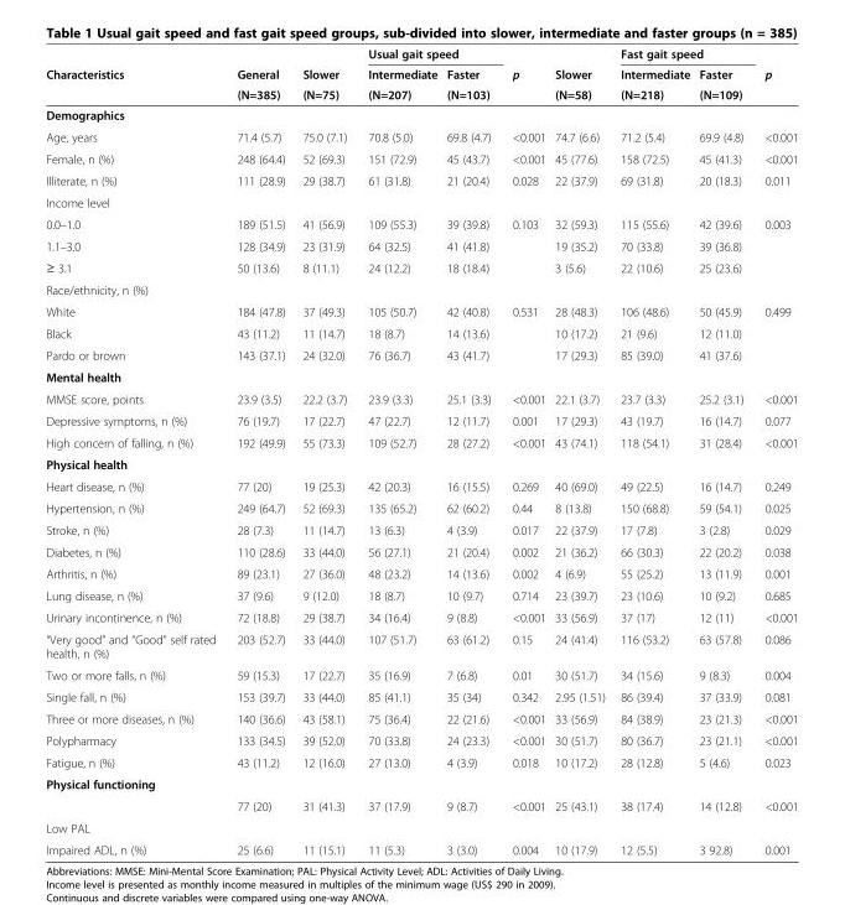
<table><thead><tr><td rowspan="3">Characteristics</td><td rowspan="3">General (N=385)</td><td rowspan="3">Slower (N=75)</td><td colspan="2">Usual gait speed</td><td rowspan="3">p</td><td rowspan="3">Slower (N=58)</td><td colspan="2">Fast gait speed</td><td rowspan="3">p</td></tr><tr><td rowspan="2">Intermediate (N=207)</td><td rowspan="2">Faster (N=103)</td><td rowspan="2">Intermediate (N=218)</td><td rowspan="2">Faster (N=109)</td></tr><tr></tr></thead><tbody><tr><td colspan="10">Demographics</td></tr><tr><td>Age, years</td><td>71.4 (5.7)</td><td>75.0 (7.1)</td><td>70.8 (5.0)</td><td>69.8 (4.7)</td><td>&lt;0.001</td><td>74.7 (6.6)</td><td>71.2 (5.4)</td><td>69.9 (4.8)</td><td>&lt;0.001</td></tr><tr><td>Female, n (%)</td><td>248 (64.4)</td><td>52 (69.3)</td><td>151 (72.9)</td><td>45 (43.7)</td><td>&lt;0.001</td><td>45 (77.6)</td><td>158 (72.5)</td><td>45 (41.3)</td><td>&lt;0.001</td></tr><tr><td>Illiterate, n (%)</td><td>111 (28.9)</td><td>29 (38.7)</td><td>61 (31.8)</td><td>21 (20.4)</td><td>0.028</td><td>22 (37.9)</td><td>69 (31.8)</td><td>20 (18.3)</td><td>0.011</td></tr><tr><td colspan="10">Income level</td></tr><tr><td>0.0–1.0</td><td>189 (51.5)</td><td>41 (56.9)</td><td>109 (55.3)</td><td>39 (39.8)</td><td>0.103</td><td>32 (59.3)</td><td>115 (55.6)</td><td>42 (39.6)</td><td>0.003</td></tr><tr><td>1.1–3.0</td><td>128 (34.9)</td><td>23 (31.9)</td><td>64 (32.5)</td><td>41 (41.8)</td><td></td><td>19 (35.2)</td><td>70 (33.8)</td><td>39 (36.8)</td><td></td></tr><tr><td>≥ 3.1</td><td>50 (13.6)</td><td>8 (11.1)</td><td>24 (12.2)</td><td>18 (18.4)</td><td></td><td>3 (5.6)</td><td>22 (10.6)</td><td>25 (23.6)</td><td></td></tr><tr><td colspan="10">Race/ethnicity, n (%)</td></tr><tr><td>White</td><td>184 (47.8)</td><td>37 (49.3)</td><td>105 (50.7)</td><td>42 (40.8)</td><td>0.531</td><td>28 (48.3)</td><td>106 (48.6)</td><td>50 (45.9)</td><td>0.499</td></tr><tr><td>Black</td><td>43 (11.2)</td><td>11 (14.7)</td><td>18 (8.7)</td><td>14 (13.6)</td><td></td><td>10 (17.2)</td><td>21 (9.6)</td><td>12 (11.0)</td><td></td></tr><tr><td>Pardo or brown</td><td>143 (37.1)</td><td>24 (32.0)</td><td>76 (36.7)</td><td>43 (41.7)</td><td></td><td>17 (29.3)</td><td>85 (39.0)</td><td>41 (37.6)</td><td></td></tr><tr><td colspan="10">Mental health</td></tr><tr><td>MMSE score, points</td><td>23.9 (3.5)</td><td>22.2 (3.7)</td><td>23.9 (3.3)</td><td>25.1 (3.3)</td><td>&lt;0.001</td><td>22.1 (3.7)</td><td>23.7 (3.3)</td><td>25.2 (3.1)</td><td>&lt;0.001</td></tr><tr><td>Depressive symptoms, n (%)</td><td>76 (19.7)</td><td>17 (22.7)</td><td>47 (22.7)</td><td>12 (11.7)</td><td>0.001</td><td>17 (29.3)</td><td>43 (19.7)</td><td>16 (14.7)</td><td>0.077</td></tr><tr><td>High concern of falling, n (%)</td><td>192 (49.9)</td><td>55 (73.3)</td><td>109 (52.7)</td><td>28 (27.2)</td><td>&lt;0.001</td><td>43 (74.1)</td><td>118 (54.1)</td><td>31 (28.4)</td><td>&lt;0.001</td></tr><tr><td colspan="10">Physical health</td></tr><tr><td>Heart disease, n (%)</td><td>77 (20)</td><td>19 (25.3)</td><td>42 (20.3)</td><td>16 (15.5)</td><td>0.269</td><td>40 (69.0)</td><td>49 (22.5)</td><td>16 (14.7)</td><td>0.249</td></tr><tr><td>Hypertension, n (%)</td><td>249 (64.7)</td><td>52 (69.3)</td><td>135 (65.2)</td><td>62 (60.2)</td><td>0.44</td><td>8 (13.8)</td><td>150 (68.8)</td><td>59 (54.1)</td><td>0.025</td></tr><tr><td>Stroke, n (%)</td><td>28 (7.3)</td><td>11 (14.7)</td><td>13 (6.3)</td><td>4 (3.9)</td><td>0.017</td><td>22 (37.9)</td><td>17 (7.8)</td><td>3 (2.8)</td><td>0.029</td></tr><tr><td>Diabetes, n (%)</td><td>110 (28.6)</td><td>33 (44.0)</td><td>56 (27.1)</td><td>21 (20.4)</td><td>0.002</td><td>21 (36.2)</td><td>66 (30.3)</td><td>22 (20.2)</td><td>0.038</td></tr><tr><td>Arthritis, n (%)</td><td>89 (23.1)</td><td>27 (36.0)</td><td>48 (23.2)</td><td>14 (13.6)</td><td>0.002</td><td>4 (6.9)</td><td>55 (25.2)</td><td>13 (11.9)</td><td>0.001</td></tr><tr><td>Lung disease, n (%)</td><td>37 (9.6)</td><td>9 (12.0)</td><td>18 (8.7)</td><td>10 (9.7)</td><td>0.714</td><td>23 (39.7)</td><td>23 (10.6)</td><td>10 (9.2)</td><td>0.685</td></tr><tr><td>Urinary incontinence, n (%)</td><td>72 (18.8)</td><td>29 (38.7)</td><td>34 (16.4)</td><td>9 (8.8)</td><td>&lt;0.001</td><td>33 (56.9)</td><td>37 (17)</td><td>12 (11)</td><td>&lt;0.001</td></tr><tr><td>“Very good” and “Good” self rated health, n (%)</td><td>203 (52.7)</td><td>33 (44.0)</td><td>107 (51.7)</td><td>63 (61.2)</td><td>0.15</td><td>24 (41.4)</td><td>116 (53.2)</td><td>63 (57.8)</td><td>0.086</td></tr><tr><td>Two or more falls, n (%)</td><td>59 (15.3)</td><td>17 (22.7)</td><td>35 (16.9)</td><td>7 (6.8)</td><td>0.01</td><td>30 (51.7)</td><td>34 (15.6)</td><td>9 (8.3)</td><td>0.004</td></tr><tr><td>Single fall, n (%)</td><td>153 (39.7)</td><td>33 (44.0)</td><td>85 (41.1)</td><td>35 (34)</td><td>0.342</td><td>2.95 (1.51)</td><td>86 (39.4)</td><td>37 (33.9)</td><td>0.081</td></tr><tr><td>Three or more diseases, n (%)</td><td>140 (36.6)</td><td>43 (58.1)</td><td>75 (36.4)</td><td>22 (21.6)</td><td>&lt;0.001</td><td>33 (56.9)</td><td>84 (38.9)</td><td>23 (21.3)</td><td>&lt;0.001</td></tr><tr><td>Polypharmacy</td><td>133 (34.5)</td><td>39 (52.0)</td><td>70 (33.8)</td><td>24 (23.3)</td><td>&lt;0.001</td><td>30 (51.7)</td><td>80 (36.7)</td><td>23 (21.1)</td><td>&lt;0.001</td></tr><tr><td>Fatigue, n (%)</td><td>43 (11.2)</td><td>12 (16.0)</td><td>27 (13.0)</td><td>4 (3.9)</td><td>0.018</td><td>10 (17.2)</td><td>28 (12.8)</td><td>5 (4.6)</td><td>0.023</td></tr><tr><td colspan="10">Physical functioning</td></tr><tr><td></td><td>77 (20)</td><td>31 (41.3)</td><td>37 (17.9)</td><td>9 (8.7)</td><td>&lt;0.001</td><td>25 (43.1)</td><td>38 (17.4)</td><td>14 (12.8)</td><td>&lt;0.001</td></tr><tr><td colspan="10">Low PAL</td></tr><tr><td>Impaired ADL, n (%)</td><td>25 (6.6)</td><td>11 (15.1)</td><td>11 (5.3)</td><td>3 (3.0)</td><td>0.004</td><td>10 (17.9)</td><td>12 (5.5)</td><td>3 92.8)</td><td>0.001</td></tr></tbody></table>